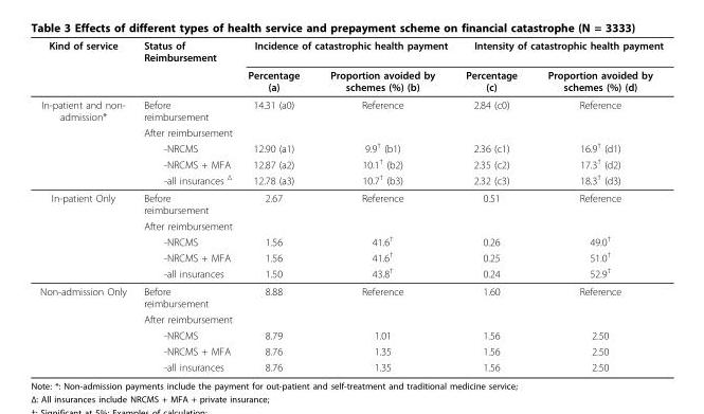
<table><thead><tr><td rowspan="2">Kind of service</td><td rowspan="2">Status of Reimbursement</td><td colspan="2">Incidence of catastrophic health payment</td><td colspan="2">Intensity of catastrophic health payment</td></tr><tr><td>Percentage (a)</td><td>Proportion avoided by schemes (%) (b)</td><td>Percentage (c)</td><td>Proportion avoided by schemes (%) (d)</td></tr></thead><tbody><tr><td rowspan="5">In-patient and non- admission*</td><td>Before reimbursement</td><td>14.31 (a0)</td><td>Reference</td><td>2.84 (c0)</td><td>Reference</td></tr><tr><td>After reimbursement</td><td></td><td></td><td></td><td></td></tr><tr><td>-NRCMS</td><td>12.90 (a1)</td><td>9.9<sup>†</sup> (b1)</td><td>2.36 (c1)</td><td>16.9<sup>†</sup> (d1)</td></tr><tr><td>-NRCMS + MFA</td><td>12.87 (a2)</td><td>10.1<sup>†</sup> (b2)</td><td>2.35 (c2)</td><td>17.3<sup>†</sup> (d2)</td></tr><tr><td>-all insurances <sup>Δ</sup></td><td>12.78 (a3)</td><td>10.7<sup>†</sup> (b3)</td><td>2.32 (c3)</td><td>18.3<sup>†</sup> (d3)</td></tr><tr><td rowspan="5">In-patient Only</td><td>Before reimbursement</td><td>2.67</td><td>Reference</td><td>0.51</td><td>Reference</td></tr><tr><td>After reimbursement</td><td></td><td></td><td></td><td></td></tr><tr><td>-NRCMS</td><td>1.56</td><td>41.6<sup>†</sup></td><td>0.26</td><td>49.0<sup>†</sup></td></tr><tr><td>-NRCMS + MFA</td><td>1.56</td><td>41.6<sup>†</sup></td><td>0.25</td><td>51.0<sup>†</sup></td></tr><tr><td>-all insurances</td><td>1.50</td><td>43.8<sup>†</sup></td><td>0.24</td><td>52.9<sup>†</sup></td></tr><tr><td rowspan="5">Non-admission Only</td><td>Before reimbursement</td><td>8.88</td><td>Reference</td><td>1.60</td><td>Reference</td></tr><tr><td>After reimbursement</td><td></td><td></td><td></td><td></td></tr><tr><td>-NRCMS</td><td>8.79</td><td>1.01</td><td>1.56</td><td>2.50</td></tr><tr><td>-NRCMS + MFA</td><td>8.76</td><td>1.35</td><td>1.56</td><td>2.50</td></tr><tr><td>-all insurances</td><td>8.76</td><td>1.35</td><td>1.56</td><td>2.50</td></tr></tbody></table>